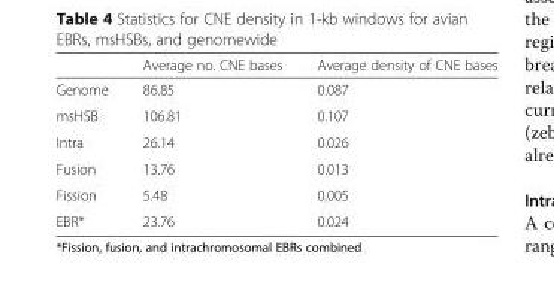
<table><thead><tr><td></td><td>Average no. CNE bases</td><td>Average density of CNE bases</td></tr></thead><tbody><tr><td>Genome</td><td>86.85</td><td>0.087</td></tr><tr><td>msHSB</td><td>106.81</td><td>0.107</td></tr><tr><td>Intra</td><td>26.14</td><td>0.026</td></tr><tr><td>Fusion</td><td>13.76</td><td>0.013</td></tr><tr><td>Fission</td><td>5.48</td><td>0.005</td></tr><tr><td>EBR*</td><td>23.76</td><td>0.024</td></tr></tbody></table>